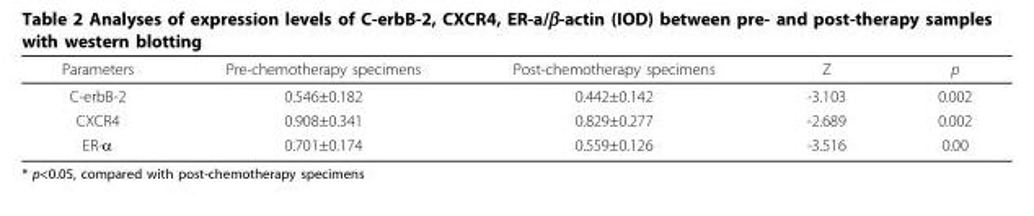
<table><thead><tr><td>Parameters</td><td>Pre-chemotherapy specimens</td><td>Post-chemotherapy specimens</td><td>Z</td><td>p</td></tr></thead><tbody><tr><td>C-erbB-2</td><td>0.546±0.182</td><td>0.442±0.142</td><td>-3.103</td><td>0.002</td></tr><tr><td>CXCR4</td><td>0.908±0.341</td><td>0.829±0.277</td><td>-2.689</td><td>0.002</td></tr><tr><td>ER-α</td><td>0.701±0.174</td><td>0.559±0.126</td><td>-3.516</td><td>0.00</td></tr></tbody></table>